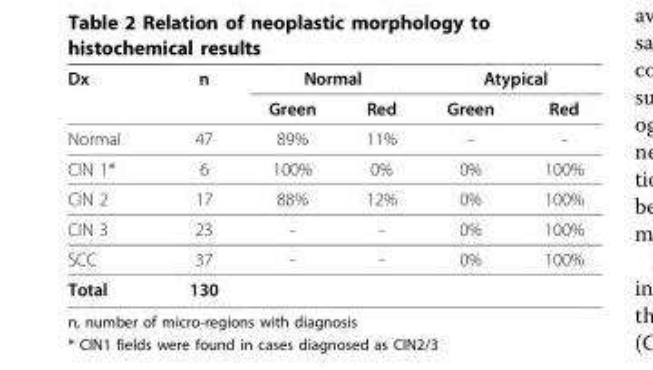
<table><thead><tr><td rowspan="2">Dx</td><td rowspan="2">n</td><td colspan="2">Normal</td><td colspan="2">Atypical</td></tr><tr><td>Green</td><td>Red</td><td>Green</td><td>Red</td></tr></thead><tbody><tr><td>Normal</td><td>47</td><td>89%</td><td>11%</td><td>-</td><td>-</td></tr><tr><td>CIN 1*</td><td>6</td><td>100%</td><td>0%</td><td>0%</td><td>100%</td></tr><tr><td>CIN 2</td><td>17</td><td>88%</td><td>12%</td><td>0%</td><td>100%</td></tr><tr><td>CIN 3</td><td>23</td><td>-</td><td>-</td><td>0%</td><td>100%</td></tr><tr><td>SCC</td><td>37</td><td>-</td><td>-</td><td>0%</td><td>100%</td></tr><tr><td>Total</td><td>130</td><td></td><td></td><td></td><td></td></tr></tbody></table>